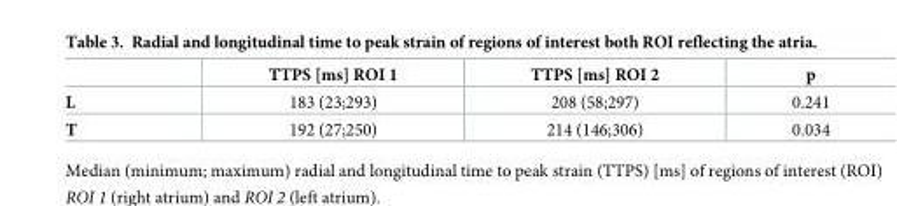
<table><thead><tr><td></td><td>TTPS [ms] ROI 1</td><td>TTPS [ms] ROI 2</td><td>p</td></tr></thead><tbody><tr><td>L</td><td>183 (23;293)</td><td>208 (58;297)</td><td>0.241</td></tr><tr><td>T</td><td>192 (27;250)</td><td>214 (146;306)</td><td>0.034</td></tr></tbody></table>